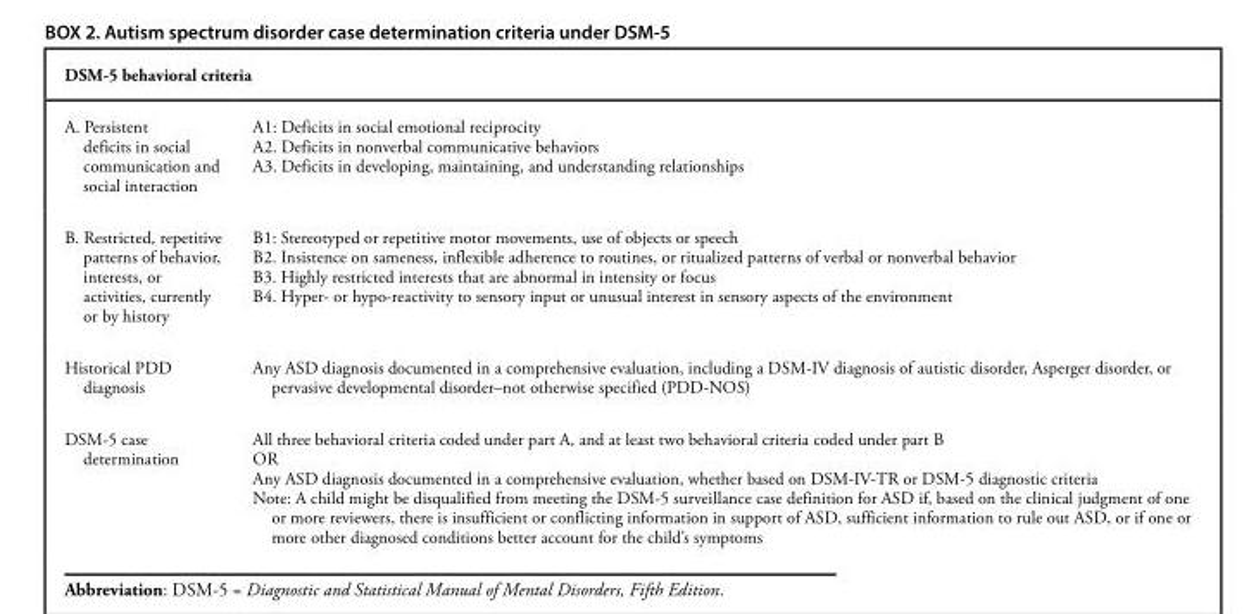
<table><thead><tr><td colspan="2">DSM-5 behavioral criteria</td></tr><tr><td>A. Persistent deficits in social communication and social interaction</td><td>A1: Deficits in social emotional reciprocity A2. Deficits in nonverbal communicative behaviors A3. Deficits in developing, maintaining, and understanding relationships</td></tr></thead><tbody><tr><td>B. Restricted, repetitive patterns of behavior, interests, or activities, currently or by history</td><td>B1: Stereotyped or repetitive motor movements, use of objects or speech B2. Insistence on sameness, inflexible adherence to routines, or ritualized patterns of verbal or nonverbal behavior B3. Highly restricted interests that are abnormal in intensity or focus B4. Hyper- or hypo-reactivity to sensory input or unusual interest in sensory aspects of the environment</td></tr><tr><td>Historical PDD diagnosis</td><td>Any ASD diagnosis documented in a comprehensive evaluation, including a DSM-IV diagnosis of autistic disorder, Asperger disorder, or pervasive developmental disorder–not otherwise specified (PDD-NOS)</td></tr><tr><td>DSM-5 case determination</td><td>All three behavioral criteria coded under part A, and at least two behavioral criteria coded under part B OR Any ASD diagnosis documented in a comprehensive evaluation, whether based on DSM-IV-TR or DSM-5 diagnostic criteria Note: A child might be disqualified from meeting the DSM-5 surveillance case definition for ASD if, based on the clinical judgment of one or more reviewers, there is insufficient or conflicting information in support of ASD, sufficient information to rule out ASD, or if one or more other diagnosed conditions better account for the child’s symptoms</td></tr></tbody></table>